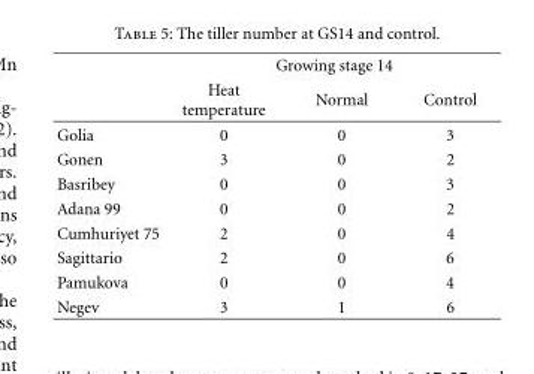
<table><thead><tr><td rowspan="2"></td><td colspan="3">Growing stage 14</td></tr><tr><td>Heat temperature</td><td>Normal</td><td>Control</td></tr></thead><tbody><tr><td>Golia</td><td>0</td><td>0</td><td>3</td></tr><tr><td>Gonen</td><td>3</td><td>0</td><td>2</td></tr><tr><td>Basribey</td><td>0</td><td>0</td><td>3</td></tr><tr><td>Adana 99</td><td>0</td><td>0</td><td>2</td></tr><tr><td>Cumhuriyet 75</td><td>2</td><td>0</td><td>4</td></tr><tr><td>Sagittario</td><td>2</td><td>0</td><td>6</td></tr><tr><td>Pamukova</td><td>0</td><td>0</td><td>4</td></tr><tr><td>Negev</td><td>3</td><td>1</td><td>6</td></tr></tbody></table>